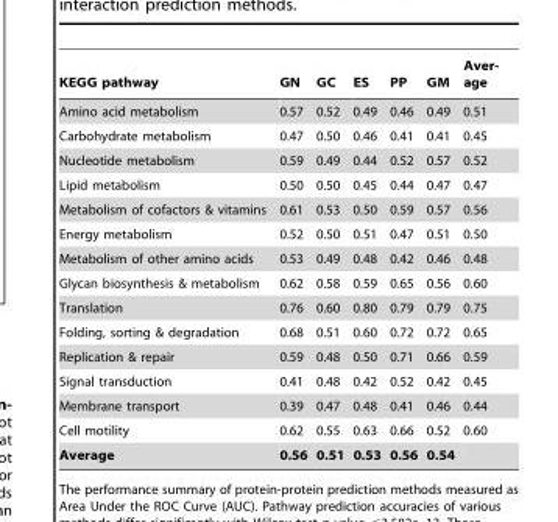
<table><thead><tr><td>KEGG pathway</td><td>GN</td><td>GC</td><td>ES</td><td>PP</td><td>GM</td><td>Aver- age</td></tr></thead><tbody><tr><td>Amino acid metabolism</td><td>0.57</td><td>0.52</td><td>0.49</td><td>0.46</td><td>0.49</td><td>0.51</td></tr><tr><td>Carbohydrate metabolism</td><td>0.47</td><td>0.50</td><td>0.46</td><td>0.41</td><td>0.41</td><td>0.45</td></tr><tr><td>Nucleotide metabolism</td><td>0.59</td><td>0.49</td><td>0.44</td><td>0.52</td><td>0.57</td><td>0.52</td></tr><tr><td>Lipid metabolism</td><td>0.50</td><td>0.50</td><td>0.45</td><td>0.44</td><td>0.47</td><td>0.47</td></tr><tr><td>Metabolism of cofactors &amp; vitamins</td><td>0.61</td><td>0.53</td><td>0.50</td><td>0.59</td><td>0.57</td><td>0.56</td></tr><tr><td>Energy metabolism</td><td>0.52</td><td>0.50</td><td>0.51</td><td>0.47</td><td>0.51</td><td>0.50</td></tr><tr><td>Metabolism of other amino acids</td><td>0.53</td><td>0.49</td><td>0.48</td><td>0.42</td><td>0.46</td><td>0.48</td></tr><tr><td>Glycan biosynthesis &amp; metabolism</td><td>0.62</td><td>0.58</td><td>0.59</td><td>0.65</td><td>0.56</td><td>0.60</td></tr><tr><td>Translation</td><td>0.76</td><td>0.60</td><td>0.80</td><td>0.79</td><td>0.79</td><td>0.75</td></tr><tr><td>Folding, sorting &amp; degradation</td><td>0.68</td><td>0.51</td><td>0.60</td><td>0.72</td><td>0.72</td><td>0.65</td></tr><tr><td>Replication &amp; repair</td><td>0.59</td><td>0.48</td><td>0.50</td><td>0.71</td><td>0.66</td><td>0.59</td></tr><tr><td>Signal transduction</td><td>0.41</td><td>0.48</td><td>0.42</td><td>0.52</td><td>0.42</td><td>0.45</td></tr><tr><td>Membrane transport</td><td>0.39</td><td>0.47</td><td>0.48</td><td>0.41</td><td>0.46</td><td>0.44</td></tr><tr><td>Cell motility</td><td>0.62</td><td>0.55</td><td>0.63</td><td>0.66</td><td>0.52</td><td>0.60</td></tr><tr><td>Average</td><td>0.56</td><td>0.51</td><td>0.53</td><td>0.56</td><td>0.54</td><td></td></tr></tbody></table>